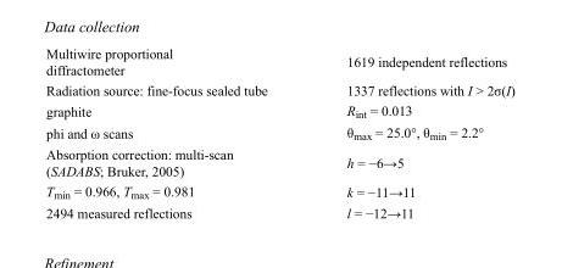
<table><tbody><tr><td>Multiwire proportional diffractometer</td><td>1619 independent reflections</td></tr><tr><td>Radiation source: fine-focus sealed tube</td><td>1337 reflections with I &gt; 2σ(I)</td></tr><tr><td>graphite</td><td>R<sub>int</sub> = 0.013</td></tr><tr><td>phi and ω scans</td><td>θ<sub>max</sub> = 25.0°, θ<sub>min</sub> = 2.2°</td></tr><tr><td>Absorption correction: multi-scan (SADABS; Bruker, 2005)</td><td>h = −6→5</td></tr><tr><td>T<sub>min</sub> = 0.966, T<sub>max</sub> = 0.981</td><td>k = −11→11</td></tr><tr><td>2494 measured reflections</td><td>l = −12→11</td></tr></tbody></table>